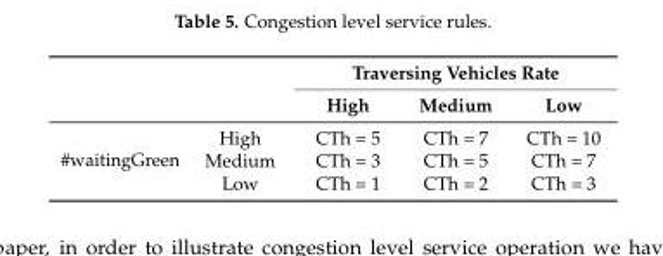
<table><thead><tr><td rowspan="2"></td><td rowspan="2"></td><td colspan="3">Traversing Vehicles Rate</td></tr><tr><td>High</td><td>Medium</td><td>Low</td></tr></thead><tbody><tr><td rowspan="3">#waitingGreen</td><td>High</td><td>CTh = 5</td><td>CTh = 7</td><td>CTh = 10</td></tr><tr><td>Medium</td><td>CTh = 3</td><td>CTh = 5</td><td>CTh = 7</td></tr><tr><td>Low</td><td>CTh = 1</td><td>CTh = 2</td><td>CTh = 3</td></tr></tbody></table>